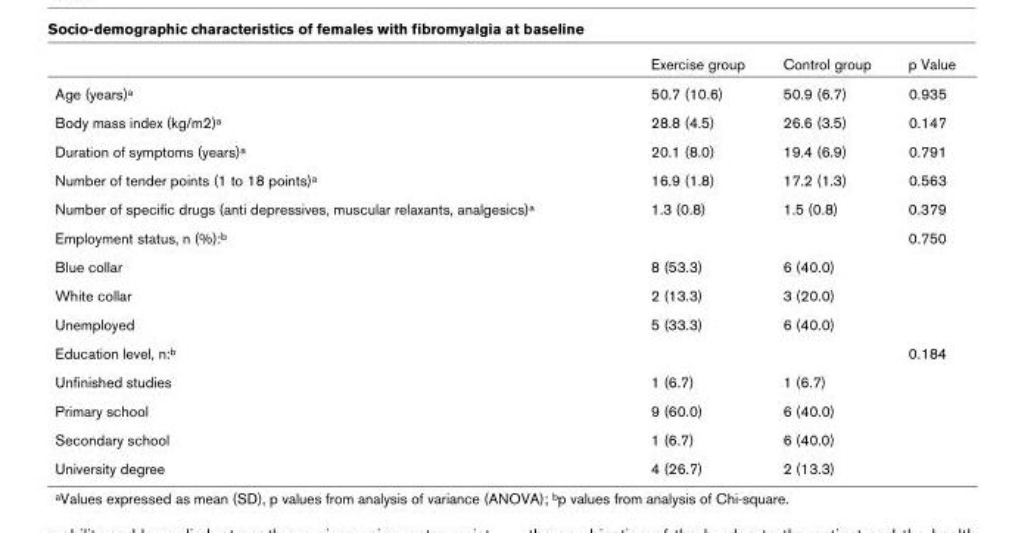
<table><thead><tr><td></td><td>Exercise group</td><td>Control group</td><td>p Value</td></tr></thead><tbody><tr><td>Age (years)<sup>a</sup></td><td>50.7 (10.6)</td><td>50.9 (6.7)</td><td>0.935</td></tr><tr><td>Body mass index (kg/m2)<sup>a</sup></td><td>28.8 (4.5)</td><td>26.6 (3.5)</td><td>0.147</td></tr><tr><td>Duration of symptoms (years)<sup>a</sup></td><td>20.1 (8.0)</td><td>19.4 (6.9)</td><td>0.791</td></tr><tr><td>Number of tender points (1 to 18 points)<sup>a</sup></td><td>16.9 (1.8)</td><td>17.2 (1.3)</td><td>0.563</td></tr><tr><td>Number of specific drugs (anti depressives, muscular relaxants, analgesics)<sup>a</sup></td><td>1.3 (0.8)</td><td>1.5 (0.8)</td><td>0.379</td></tr><tr><td>Employment status, n (%):<sup>b</sup></td><td></td><td></td><td>0.750</td></tr><tr><td>Blue collar</td><td>8 (53.3)</td><td>6 (40.0)</td><td></td></tr><tr><td>White collar</td><td>2 (13.3)</td><td>3 (20.0)</td><td></td></tr><tr><td>Unemployed</td><td>5 (33.3)</td><td>6 (40.0)</td><td></td></tr><tr><td>Education level, n:<sup>b</sup></td><td></td><td></td><td>0.184</td></tr><tr><td>Unfinished studies</td><td>1 (6.7)</td><td>1 (6.7)</td><td></td></tr><tr><td>Primary school</td><td>9 (60.0)</td><td>6 (40.0)</td><td></td></tr><tr><td>Secondary school</td><td>1 (6.7)</td><td>6 (40.0)</td><td></td></tr><tr><td>University degree</td><td>4 (26.7)</td><td>2 (13.3)</td><td></td></tr></tbody></table>